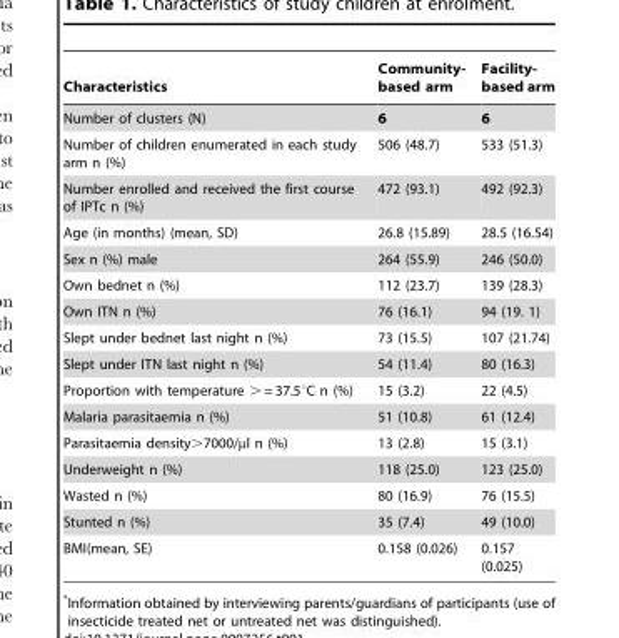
<table><thead><tr><td>Characteristics</td><td>Community- based arm</td><td>Facility- based arm</td></tr></thead><tbody><tr><td>Number of clusters (N)</td><td>6</td><td>6</td></tr><tr><td>Number of children enumerated in each study arm n (%)</td><td>506 (48.7)</td><td>533 (51.3)</td></tr><tr><td>Number enrolled and received the first course of IPTc n (%)</td><td>472 (93.1)</td><td>492 (92.3)</td></tr><tr><td>Age (in months) (mean, SD)</td><td>26.8 (15.89)</td><td>28.5 (16.54)</td></tr><tr><td>Sex n (%) male</td><td>264 (55.9)</td><td>246 (50.0)</td></tr><tr><td>Own bednet n (%)</td><td>112 (23.7)</td><td>139 (28.3)</td></tr><tr><td>Own ITN n (%)</td><td>76 (16.1)</td><td>94 (19. 1)</td></tr><tr><td>Slept under bednet last night n (%)</td><td>73 (15.5)</td><td>107 (21.74)</td></tr><tr><td>Slept under ITN last night n (%)</td><td>54 (11.4)</td><td>80 (16.3)</td></tr><tr><td>Proportion with temperature &gt; = 37.5°C n (%)</td><td>15 (3.2)</td><td>22 (4.5)</td></tr><tr><td>Malaria parasitaemia n (%)</td><td>51 (10.8)</td><td>61 (12.4)</td></tr><tr><td>Parasitaemia density&gt;7000/µl n (%)</td><td>13 (2.8)</td><td>15 (3.1)</td></tr><tr><td>Underweight n (%)</td><td>118 (25.0)</td><td>123 (25.0)</td></tr><tr><td>Wasted n (%)</td><td>80 (16.9)</td><td>76 (15.5)</td></tr><tr><td>Stunted n (%)</td><td>35 (7.4)</td><td>49 (10.0)</td></tr><tr><td>BMI(mean, SE)</td><td>0.158 (0.026)</td><td>0.157 (0.025)</td></tr></tbody></table>